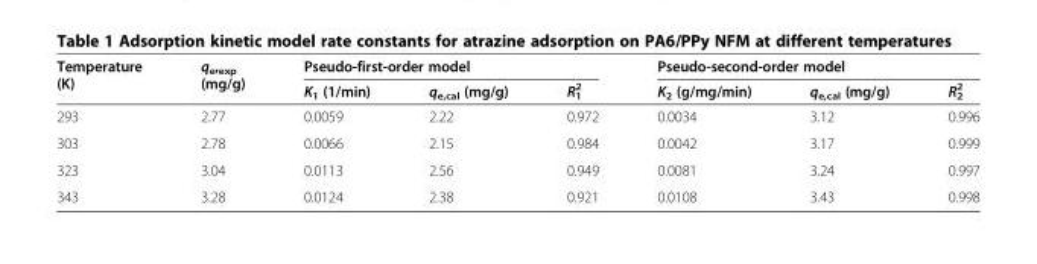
<table><thead><tr><td rowspan="2">Temperature (K)</td><td rowspan="2">q<sub>e</sub>,<sub>exp</sub> (mg/g)</td><td colspan="3">Pseudo-first-order model</td><td colspan="3">Pseudo-second-order model</td></tr><tr><td>K<sub>1</sub> (1/min)</td><td>q<sub>e,cal</sub> (mg/g)</td><td>R<sub>1</sub> <sup>2</sup></td><td>K<sub>2</sub> (g/mg/min)</td><td>q<sub>e,cal</sub> (mg/g)</td><td>R<sub>2</sub> <sup>2</sup></td></tr></thead><tbody><tr><td>293</td><td>2.77</td><td>0.0059</td><td>2.22</td><td>0.972</td><td>0.0034</td><td>3.12</td><td>0.996</td></tr><tr><td>303</td><td>2.78</td><td>0.0066</td><td>2.15</td><td>0.984</td><td>0.0042</td><td>3.17</td><td>0.999</td></tr><tr><td>323</td><td>3.04</td><td>0.0113</td><td>2.56</td><td>0.949</td><td>0.0081</td><td>3.24</td><td>0.997</td></tr><tr><td>343</td><td>3.28</td><td>0.0124</td><td>2.38</td><td>0.921</td><td>0.0108</td><td>3.43</td><td>0.998</td></tr></tbody></table>